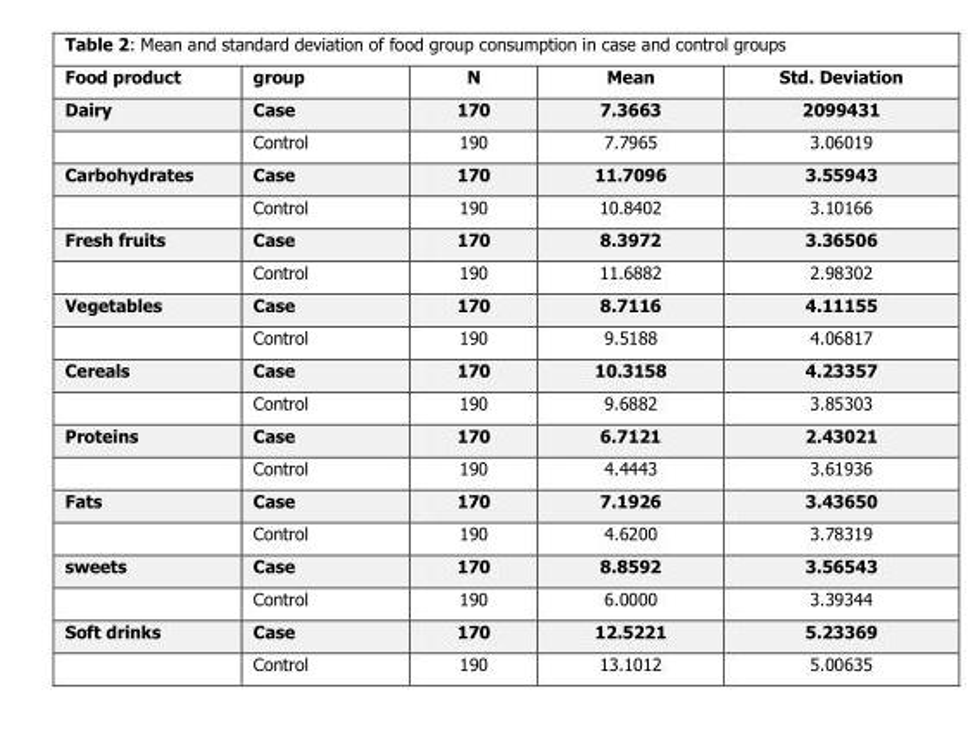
<table><thead><tr><td>Food product</td><td>group</td><td>N</td><td>Mean</td><td>Std. Deviation</td></tr></thead><tbody><tr><td rowspan="2">Dairy</td><td>Case</td><td>170</td><td>7.3663</td><td>2099431</td></tr><tr><td>Control</td><td>190</td><td>7.7965</td><td>3.06019</td></tr><tr><td rowspan="2">Carbohydrates</td><td>Case</td><td>170</td><td>11.7096</td><td>3.55943</td></tr><tr><td>Control</td><td>190</td><td>10.8402</td><td>3.10166</td></tr><tr><td rowspan="2">Fresh fruits</td><td>Case</td><td>170</td><td>8.3972</td><td>3.36506</td></tr><tr><td>Control</td><td>190</td><td>11.6882</td><td>2.98302</td></tr><tr><td rowspan="2">Vegetables</td><td>Case</td><td>170</td><td>8.7116</td><td>4.11155</td></tr><tr><td>Control</td><td>190</td><td>9.5188</td><td>4.06817</td></tr><tr><td rowspan="2">Cereals</td><td>Case</td><td>170</td><td>10.3158</td><td>4.23357</td></tr><tr><td>Control</td><td>190</td><td>9.6882</td><td>3.85303</td></tr><tr><td rowspan="2">Proteins</td><td>Case</td><td>170</td><td>6.7121</td><td>2.43021</td></tr><tr><td>Control</td><td>190</td><td>4.4443</td><td>3.61936</td></tr><tr><td rowspan="2">Fats</td><td>Case</td><td>170</td><td>7.1926</td><td>3.43650</td></tr><tr><td>Control</td><td>190</td><td>4.6200</td><td>3.78319</td></tr><tr><td rowspan="2">sweets</td><td>Case</td><td>170</td><td>8.8592</td><td>3.56543</td></tr><tr><td>Control</td><td>190</td><td>6.0000</td><td>3.39344</td></tr><tr><td rowspan="2">Soft drinks</td><td>Case</td><td>170</td><td>12.5221</td><td>5.23369</td></tr><tr><td>Control</td><td>190</td><td>13.1012</td><td>5.00635</td></tr></tbody></table>